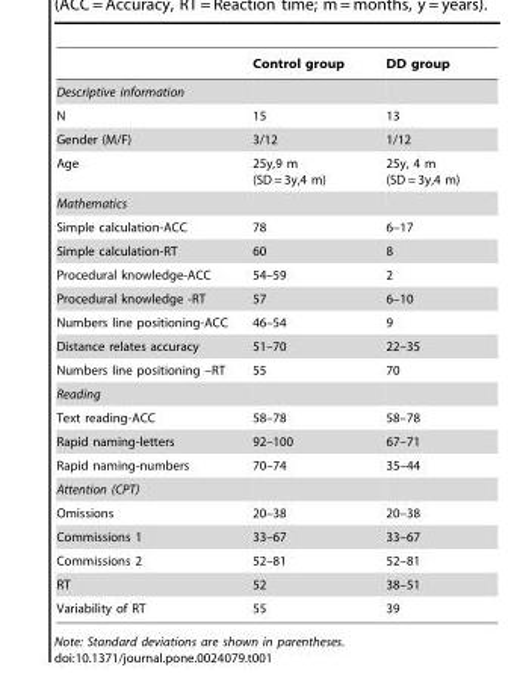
<table><thead><tr><td></td><td>Control group</td><td>DD group</td></tr></thead><tbody><tr><td colspan="3">Descriptive information</td></tr><tr><td>N</td><td>15</td><td>13</td></tr><tr><td>Gender (M/F)</td><td>3/12</td><td>1/12</td></tr><tr><td>Age</td><td>25y,9 m (SD = 3y,4 m)</td><td>25y, 4 m (SD = 3y,4 m)</td></tr><tr><td colspan="3">Mathematics</td></tr><tr><td>Simple calculation-ACC</td><td>78</td><td>6–17</td></tr><tr><td>Simple calculation-RT</td><td>60</td><td>8</td></tr><tr><td>Procedural knowledge-ACC</td><td>54–59</td><td>2</td></tr><tr><td>Procedural knowledge -RT</td><td>57</td><td>6–10</td></tr><tr><td>Numbers line positioning-ACC</td><td>46–54</td><td>9</td></tr><tr><td>Distance relates accuracy</td><td>51–70</td><td>22–35</td></tr><tr><td>Numbers line positioning –RT</td><td>55</td><td>70</td></tr><tr><td colspan="3">Reading</td></tr><tr><td>Text reading-ACC</td><td>58–78</td><td>58–78</td></tr><tr><td>Rapid naming-letters</td><td>92–100</td><td>67–71</td></tr><tr><td>Rapid naming-numbers</td><td>70–74</td><td>35–44</td></tr><tr><td colspan="3">Attention (CPT)</td></tr><tr><td>Omissions</td><td>20–38</td><td>20–38</td></tr><tr><td>Commissions 1</td><td>33–67</td><td>33–67</td></tr><tr><td>Commissions 2</td><td>52–81</td><td>52–81</td></tr><tr><td>RT</td><td>52</td><td>38–51</td></tr><tr><td>Variability of RT</td><td>55</td><td>39</td></tr></tbody></table>